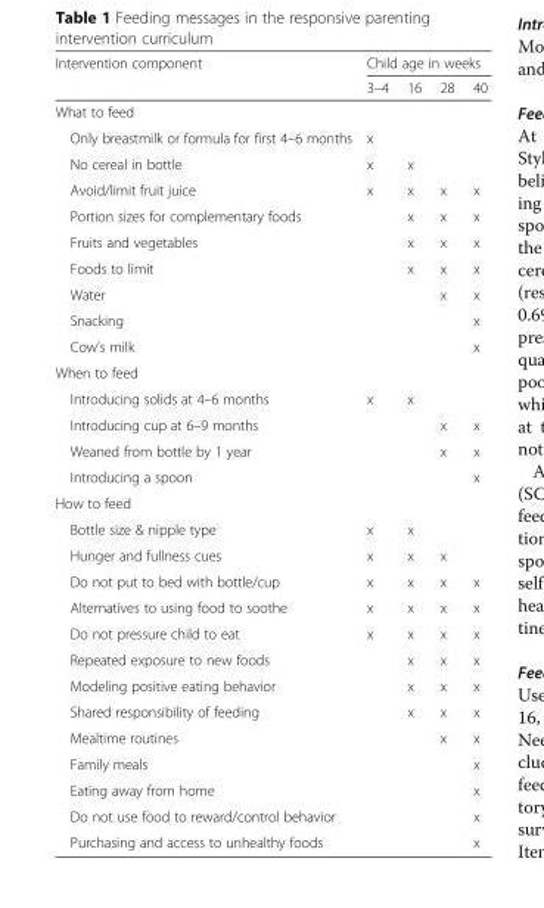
<table><thead><tr><td rowspan="2">Intervention component</td><td colspan="4">Child age in weeks</td></tr><tr><td>3–4</td><td>16</td><td>28</td><td>40</td></tr></thead><tbody><tr><td colspan="5">What to feed</td></tr><tr><td>Only breastmilk or formula for first 4–6 months</td><td>x</td><td></td><td></td><td></td></tr><tr><td>No cereal in bottle</td><td>x</td><td>x</td><td></td><td></td></tr><tr><td>Avoid/limit fruit juice</td><td>x</td><td>x</td><td>x</td><td>x</td></tr><tr><td>Portion sizes for complementary foods</td><td></td><td>x</td><td>x</td><td>x</td></tr><tr><td>Fruits and vegetables</td><td></td><td>x</td><td>x</td><td>x</td></tr><tr><td>Foods to limit</td><td></td><td>x</td><td>x</td><td>x</td></tr><tr><td>Water</td><td></td><td></td><td>x</td><td>x</td></tr><tr><td>Snacking</td><td></td><td></td><td></td><td>x</td></tr><tr><td>Cow’s milk</td><td></td><td></td><td></td><td>x</td></tr><tr><td colspan="5">When to feed</td></tr><tr><td>Introducing solids at 4–6 months</td><td>x</td><td>x</td><td></td><td></td></tr><tr><td>Introducing cup at 6–9 months</td><td></td><td></td><td>x</td><td>x</td></tr><tr><td>Weaned from bottle by 1 year</td><td></td><td></td><td>x</td><td>x</td></tr><tr><td>Introducing a spoon</td><td></td><td></td><td></td><td>x</td></tr><tr><td colspan="5">How to feed</td></tr><tr><td>Bottle size &amp; nipple type</td><td>x</td><td>x</td><td></td><td></td></tr><tr><td>Hunger and fullness cues</td><td>x</td><td>x</td><td>x</td><td></td></tr><tr><td>Do not put to bed with bottle/cup</td><td>x</td><td>x</td><td>x</td><td>x</td></tr><tr><td>Alternatives to using food to soothe</td><td>x</td><td>x</td><td>x</td><td>x</td></tr><tr><td>Do not pressure child to eat</td><td>x</td><td>x</td><td>x</td><td>x</td></tr><tr><td>Repeated exposure to new foods</td><td></td><td>x</td><td>x</td><td>x</td></tr><tr><td>Modeling positive eating behavior</td><td></td><td>x</td><td>x</td><td>x</td></tr><tr><td>Shared responsibility of feeding</td><td></td><td>x</td><td>x</td><td>x</td></tr><tr><td>Mealtime routines</td><td></td><td></td><td>x</td><td>x</td></tr><tr><td>Family meals</td><td></td><td></td><td></td><td>x</td></tr><tr><td>Eating away from home</td><td></td><td></td><td></td><td>x</td></tr><tr><td>Do not use food to reward/control behavior</td><td></td><td></td><td></td><td>x</td></tr><tr><td>Purchasing and access to unhealthy foods</td><td></td><td></td><td></td><td>x</td></tr></tbody></table>